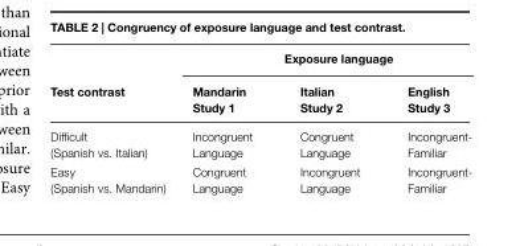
<table><thead><tr><td rowspan="2">Test contrast</td><td colspan="3">Exposure language</td></tr><tr><td>Mandarin Study 1</td><td>Italian Study 2</td><td>English Study 3</td></tr></thead><tbody><tr><td>Difficult (Spanish vs. Italian)</td><td>Incongruent Language</td><td>Congruent Language</td><td>Incongruent- Familiar</td></tr><tr><td>Easy (Spanish vs. Mandarin)</td><td>Congruent Language</td><td>Incongruent Language</td><td>Incongruent- Familiar</td></tr></tbody></table>